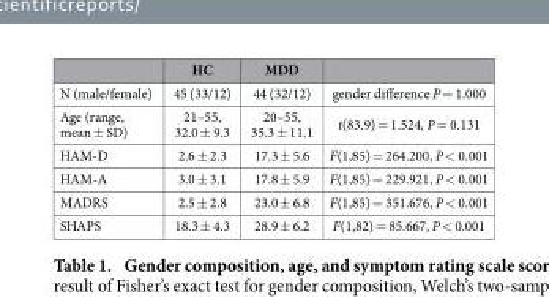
<table><thead><tr><td></td><td>HC</td><td>MDD</td><td></td></tr></thead><tbody><tr><td>N (male/female)</td><td>45 (33/12)</td><td>44 (32/12)</td><td>gender difference P = 1.000</td></tr><tr><td>Age (range, mean ± SD)</td><td>21–55, 32.0 ± 9.3</td><td>20–55, 35.3 ± 11.1</td><td>t(83.9) = 1.524, P = 0.131</td></tr><tr><td>HAM-D</td><td>2.6 ± 2.3</td><td>17.3 ± 5.6</td><td>F(1,85) = 264.200, P &lt; 0.001</td></tr><tr><td>HAM-A</td><td>3.0 ± 3.1</td><td>17.8 ± 5.9</td><td>F(1,85) = 229.921, P &lt; 0.001</td></tr><tr><td>MADRS</td><td>2.5 ± 2.8</td><td>23.0 ± 6.8</td><td>F(1,85) = 351.676, P &lt; 0.001</td></tr><tr><td>SHAPS</td><td>18.3 ± 4.3</td><td>28.9 ± 6.2</td><td>F(1,82) = 85.667, P &lt; 0.001</td></tr></tbody></table>